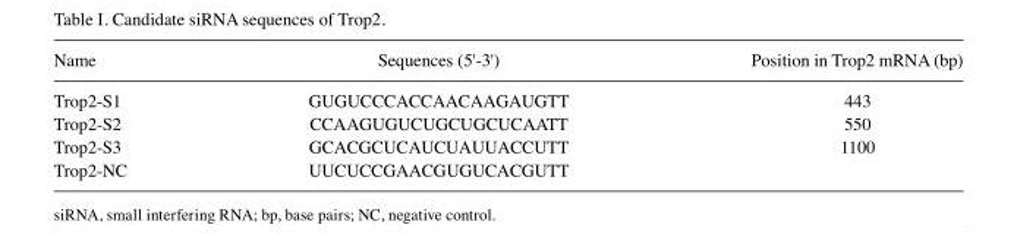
<table><thead><tr><td>Name</td><td>Sequences (5&#x27;-3&#x27;)</td><td>Position in Trop2 mRNA (bp)</td></tr></thead><tbody><tr><td>Trop2-S1</td><td>GUGUCCCACCAACAAGAUGTT</td><td>443</td></tr><tr><td>Trop2-S2</td><td>CCAAGUGUCUGCUGCUCAATT</td><td>550</td></tr><tr><td>Trop2-S3</td><td>GCACGCUCAUCUAUUACCUTT</td><td>1100</td></tr><tr><td>Trop2-NC</td><td>UUCUCCGAACGUGUCACGUTT</td><td></td></tr></tbody></table>